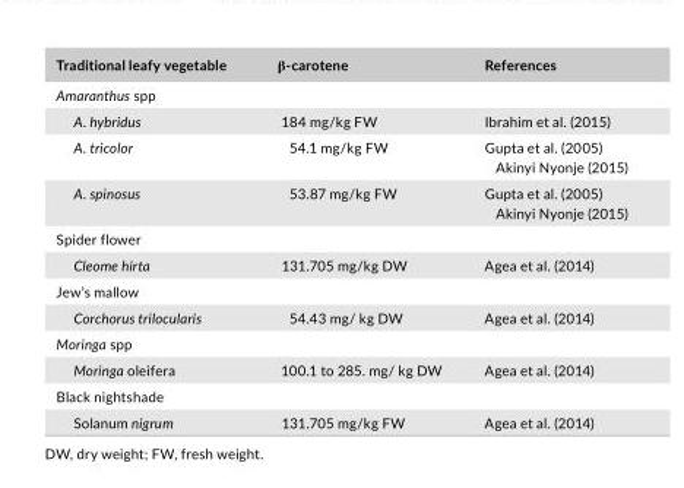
<table><thead><tr><td>Traditional leafy vegetable</td><td>β- carotene</td><td>References</td></tr></thead><tbody><tr><td colspan="3">Amaranthus spp</td></tr><tr><td>A. hybridus</td><td>184 mg/kg FW</td><td>Ibrahim et al. (2015)</td></tr><tr><td>A. tricolor</td><td>54.1 mg/kg FW</td><td>Gupta et al. (2005) Akinyi Nyonje (2015)</td></tr><tr><td>A. spinosus</td><td>53.87 mg/kg FW</td><td>Gupta et al. (2005) Akinyi Nyonje (2015)</td></tr><tr><td colspan="3">Spider flower</td></tr><tr><td>Cleome hirta</td><td>131.705 mg/kg DW</td><td>Agea et al. (2014)</td></tr><tr><td colspan="3">Jew’s mallow</td></tr><tr><td>Corchorus trilocularis</td><td>54.43 mg/ kg DW</td><td>Agea et al. (2014)</td></tr><tr><td colspan="3">Moringa spp</td></tr><tr><td>Moringa oleifera</td><td>100.1 to 285. mg/ kg DW</td><td>Agea et al. (2014)</td></tr><tr><td colspan="3">Black nightshade</td></tr><tr><td>Solanum nigrum</td><td>131.705 mg/kg FW</td><td>Agea et al. (2014)</td></tr></tbody></table>